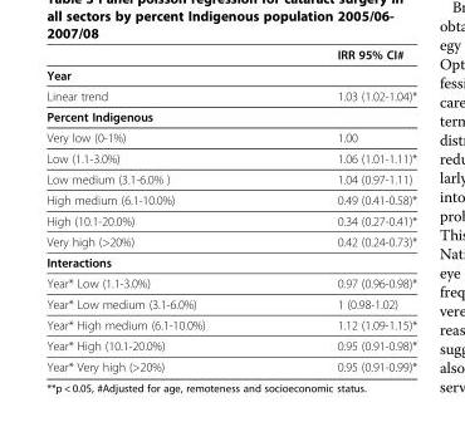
<table><thead><tr><td></td><td>IRR 95% CI#</td></tr></thead><tbody><tr><td colspan="2">Year</td></tr><tr><td>Linear trend</td><td>1.03 (1.02-1.04)*</td></tr><tr><td colspan="2">Percent Indigenous</td></tr><tr><td>Very low (0-1%)</td><td>1.00</td></tr><tr><td>Low (1.1-3.0%)</td><td>1.06 (1.01-1.11)*</td></tr><tr><td>Low medium (3.1-6.0% )</td><td>1.04 (0.97-1.11)</td></tr><tr><td>High medium (6.1-10.0%)</td><td>0.49 (0.41-0.58)*</td></tr><tr><td>High (10.1-20.0%)</td><td>0.34 (0.27-0.41)*</td></tr><tr><td>Very high (&gt;20%)</td><td>0.42 (0.24-0.73)*</td></tr><tr><td colspan="2">Interactions</td></tr><tr><td>Year* Low (1.1-3.0%)</td><td>0.97 (0.96-0.98)*</td></tr><tr><td>Year* Low medium (3.1-6.0%)</td><td>1 (0.98-1.02)</td></tr><tr><td>Year* High medium (6.1-10.0%)</td><td>1.12 (1.09-1.15)*</td></tr><tr><td>Year* High (10.1-20.0%)</td><td>0.95 (0.91-0.98)*</td></tr><tr><td>Year* Very high (&gt;20%)</td><td>0.95 (0.91-0.99)*</td></tr></tbody></table>